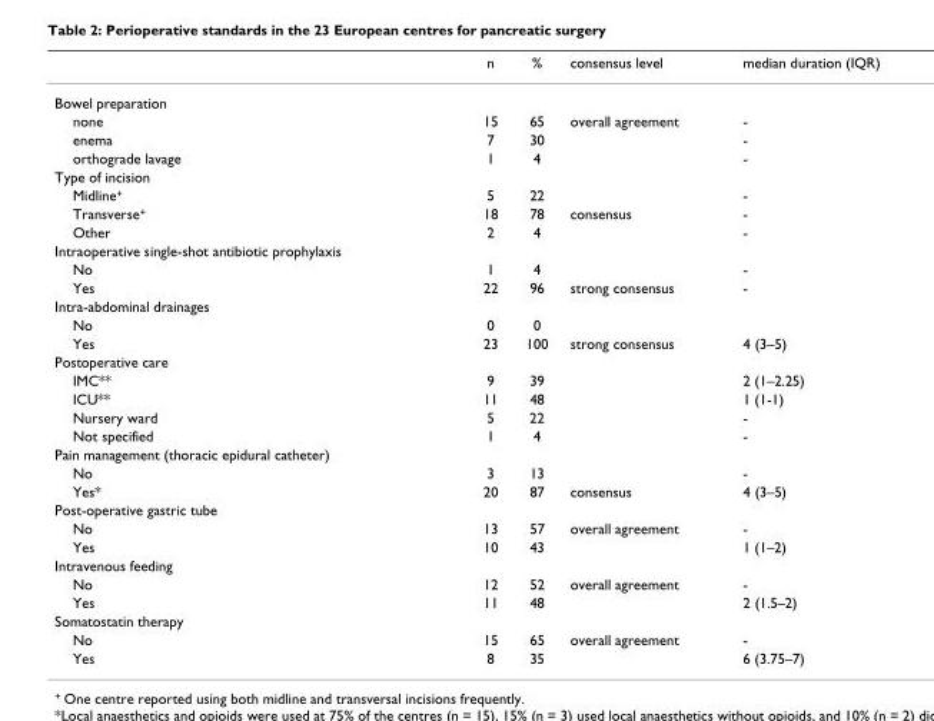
<table><thead><tr><td></td><td>n</td><td>%</td><td>consensus level</td><td>median duration (IQR)</td></tr></thead><tbody><tr><td colspan="5">Bowel preparation</td></tr><tr><td>none</td><td>15</td><td>65</td><td>overall agreement</td><td>-</td></tr><tr><td>enema</td><td>7</td><td>30</td><td></td><td>-</td></tr><tr><td>orthograde lavage</td><td>1</td><td>4</td><td></td><td>-</td></tr><tr><td colspan="5">Type of incision</td></tr><tr><td>Midline<sup>+</sup></td><td>5</td><td>22</td><td></td><td>-</td></tr><tr><td>Transverse<sup>+</sup></td><td>18</td><td>78</td><td>consensus</td><td>-</td></tr><tr><td>Other</td><td>2</td><td>4</td><td></td><td>-</td></tr><tr><td colspan="5">Intraoperative single-shot antibiotic prophylaxis</td></tr><tr><td>No</td><td>1</td><td>4</td><td></td><td>-</td></tr><tr><td>Yes</td><td>22</td><td>96</td><td>strong consensus</td><td>-</td></tr><tr><td colspan="5">Intra-abdominal drainages</td></tr><tr><td>No</td><td>0</td><td>0</td><td></td><td></td></tr><tr><td>Yes</td><td>23</td><td>100</td><td>strong consensus</td><td>4 (3–5)</td></tr><tr><td colspan="5">Postoperative care</td></tr><tr><td>IMC**</td><td>9</td><td>39</td><td></td><td>2 (1–2.25)</td></tr><tr><td>ICU**</td><td>11</td><td>48</td><td></td><td>1 (1-1)</td></tr><tr><td>Nursery ward</td><td>5</td><td>22</td><td></td><td>-</td></tr><tr><td>Not specified</td><td>1</td><td>4</td><td></td><td>-</td></tr><tr><td colspan="5">Pain management (thoracic epidural catheter)</td></tr><tr><td>No</td><td>3</td><td>13</td><td></td><td>-</td></tr><tr><td>Yes*</td><td>20</td><td>87</td><td>consensus</td><td>4 (3–5)</td></tr><tr><td colspan="5">Post-operative gastric tube</td></tr><tr><td>No</td><td>13</td><td>57</td><td>overall agreement</td><td>-</td></tr><tr><td>Yes</td><td>10</td><td>43</td><td></td><td>1 (1–2)</td></tr><tr><td colspan="5">Intravenous feeding</td></tr><tr><td>No</td><td>12</td><td>52</td><td>overall agreement</td><td>-</td></tr><tr><td>Yes</td><td>11</td><td>48</td><td></td><td>2 (1.5–2)</td></tr><tr><td colspan="5">Somatostatin therapy</td></tr><tr><td>No</td><td>15</td><td>65</td><td>overall agreement</td><td>-</td></tr><tr><td>Yes</td><td>8</td><td>35</td><td></td><td>6 (3.75–7)</td></tr></tbody></table>